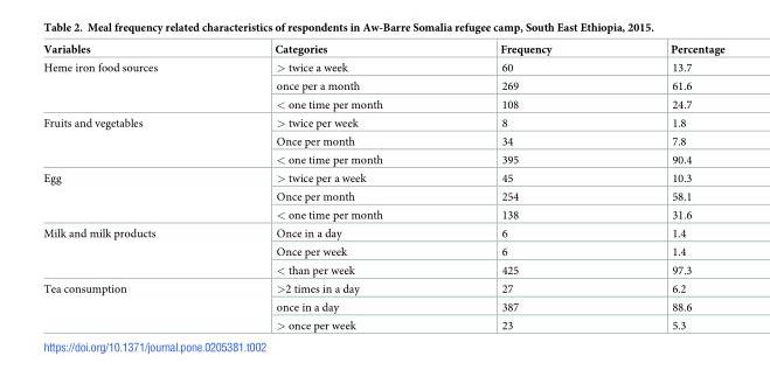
<table><thead><tr><td>Variables</td><td>Categories</td><td>Frequency</td><td>Percentage</td></tr></thead><tbody><tr><td rowspan="3">Heme iron food sources</td><td>&gt; twice a week</td><td>60</td><td>13.7</td></tr><tr><td>once per a month</td><td>269</td><td>61.6</td></tr><tr><td>&lt; one time per month</td><td>108</td><td>24.7</td></tr><tr><td rowspan="3">Fruits and vegetables</td><td>&gt; twice per week</td><td>8</td><td>1.8</td></tr><tr><td>Once per month</td><td>34</td><td>7.8</td></tr><tr><td>&lt; one time per month</td><td>395</td><td>90.4</td></tr><tr><td rowspan="3">Egg</td><td>&gt; twice per a week</td><td>45</td><td>10.3</td></tr><tr><td>Once per month</td><td>254</td><td>58.1</td></tr><tr><td>&lt; one time per month</td><td>138</td><td>31.6</td></tr><tr><td rowspan="3">Milk and milk products</td><td>Once in a day</td><td>6</td><td>1.4</td></tr><tr><td>Once per week</td><td>6</td><td>1.4</td></tr><tr><td>&lt; than per week</td><td>425</td><td>97.3</td></tr><tr><td rowspan="3">Tea consumption</td><td>&gt;2 times in a day</td><td>27</td><td>6.2</td></tr><tr><td>once in a day</td><td>387</td><td>88.6</td></tr><tr><td>&gt; once per week</td><td>23</td><td>5.3</td></tr></tbody></table>